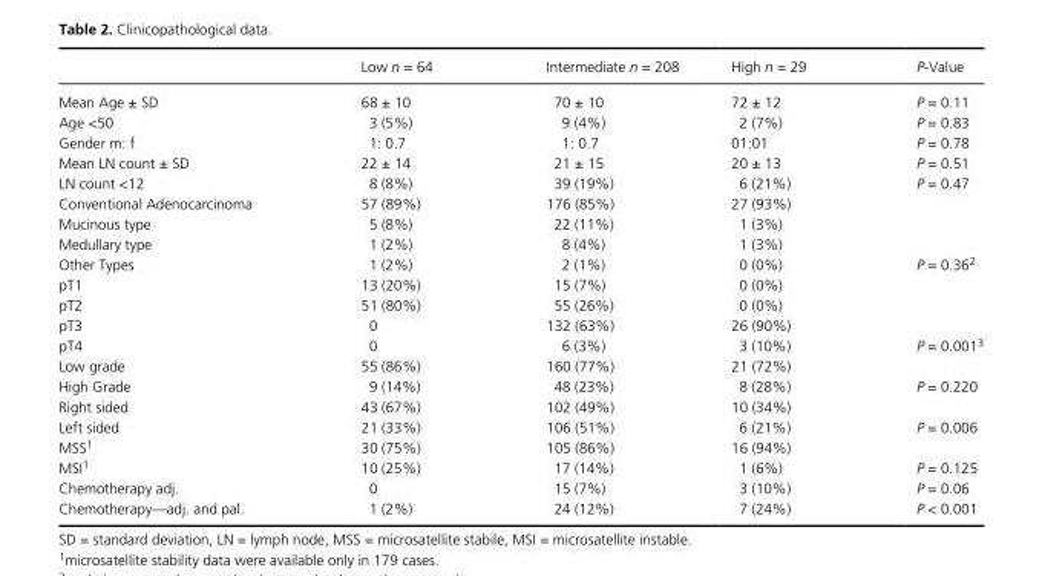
<table><thead><tr><td></td><td>Low n = 64</td><td>Intermediate n = 208</td><td>High n = 29</td><td>P- Value</td></tr></thead><tbody><tr><td>Mean Age ± SD</td><td>68 ± 10</td><td>70 ± 10</td><td>72 ± 12</td><td>P = 0.11</td></tr><tr><td>Age &lt;50</td><td>3 (5%)</td><td>9 (4%)</td><td>2 (7%)</td><td>P = 0.83</td></tr><tr><td>Gender m: f</td><td>1: 0.7</td><td>1: 0.7</td><td>01:01</td><td>P = 0.78</td></tr><tr><td>Mean LN count ± SD</td><td>22 ± 14</td><td>21 ± 15</td><td>20 ± 13</td><td>P = 0.51</td></tr><tr><td>LN count &lt;12</td><td>8 (8%)</td><td>39 (19%)</td><td>6 (21%)</td><td>P = 0.47</td></tr><tr><td>Conventional Adenocarcinoma</td><td>57 (89%)</td><td>176 (85%)</td><td>27 (93%)</td><td></td></tr><tr><td>Mucinous type</td><td>5 (8%)</td><td>22 (11%)</td><td>1 (3%)</td><td></td></tr><tr><td>Medullary type</td><td>1 (2%)</td><td>8 (4%)</td><td>1 (3%)</td><td></td></tr><tr><td>Other Types</td><td>1 (2%)</td><td>2 (1%)</td><td>0 (0%)</td><td>P = 0.362</td></tr><tr><td>pT1</td><td>13 (20%)</td><td>15 (7%)</td><td>0 (0%)</td><td></td></tr><tr><td>pT2</td><td>51 (80%)</td><td>55 (26%)</td><td>0 (0%)</td><td></td></tr><tr><td>pT3</td><td>0</td><td>132 (63%)</td><td>26 (90%)</td><td></td></tr><tr><td>pT4</td><td>0</td><td>6 (3%)</td><td>3 (10%)</td><td>P = 0.0013</td></tr><tr><td>Low grade</td><td>55 (86%)</td><td>160 (77%)</td><td>21 (72%)</td><td></td></tr><tr><td>High Grade</td><td>9 (14%)</td><td>48 (23%)</td><td>8 (28%)</td><td>P = 0.220</td></tr><tr><td>Right sided</td><td>43 (67%)</td><td>102 (49%)</td><td>10 (34%)</td><td></td></tr><tr><td>Left sided</td><td>21 (33%)</td><td>106 (51%)</td><td>6 (21%)</td><td>P = 0.006</td></tr><tr><td>MSS1</td><td>30 (75%)</td><td>105 (86%)</td><td>16 (94%)</td><td></td></tr><tr><td>MSI1</td><td>10 (25%)</td><td>17 (14%)</td><td>1 (6%)</td><td>P = 0.125</td></tr><tr><td>Chemotherapy adj.</td><td>0</td><td>15 (7%)</td><td>3 (10%)</td><td>P = 0.06</td></tr><tr><td>Chemotherapy—adj. and pal.</td><td>1 (2%)</td><td>24 (12%)</td><td>7 (24%)</td><td>P &lt; 0.001</td></tr></tbody></table>